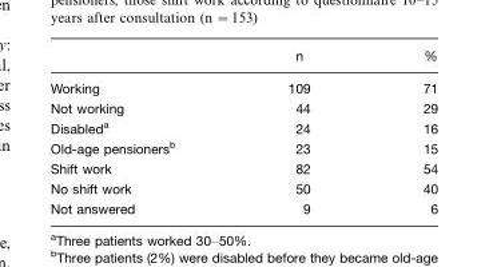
<table><thead><tr><td></td><td>n</td><td>%</td></tr></thead><tbody><tr><td>Working</td><td>109</td><td>71</td></tr><tr><td>Not working</td><td>44</td><td>29</td></tr><tr><td>Disabled<sup>a</sup></td><td>24</td><td>16</td></tr><tr><td>Old-age pensioners<sup>b</sup></td><td>23</td><td>15</td></tr><tr><td>Shift work</td><td>82</td><td>54</td></tr><tr><td>No shift work</td><td>50</td><td>40</td></tr><tr><td>Not answered</td><td>9</td><td>6</td></tr></tbody></table>